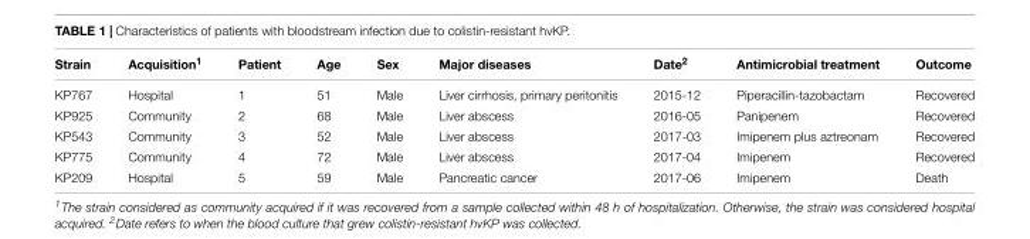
<table><thead><tr><td>Strain</td><td>Acquisition<sup>1</sup></td><td>Patient</td><td>Age</td><td>Sex</td><td>Major diseases</td><td>Date<sup>2</sup></td><td>Antimicrobial treatment</td><td>Outcome</td></tr></thead><tbody><tr><td>KP767</td><td>Hospital</td><td>1</td><td>51</td><td>Male</td><td>Liver cirrhosis, primary peritonitis</td><td>2015-12</td><td>Piperacillin-tazobactam</td><td>Recovered</td></tr><tr><td>KP925</td><td>Community</td><td>2</td><td>68</td><td>Male</td><td>Liver abscess</td><td>2016-05</td><td>Panipenem</td><td>Recovered</td></tr><tr><td>KP543</td><td>Community</td><td>3</td><td>52</td><td>Male</td><td>Liver abscess</td><td>2017-03</td><td>Imipenem plus aztreonam</td><td>Recovered</td></tr><tr><td>KP775</td><td>Community</td><td>4</td><td>72</td><td>Male</td><td>Liver abscess</td><td>2017-04</td><td>Imipenem</td><td>Recovered</td></tr><tr><td>KP209</td><td>Hospital</td><td>5</td><td>59</td><td>Male</td><td>Pancreatic cancer</td><td>2017-06</td><td>Imipenem</td><td>Death</td></tr></tbody></table>